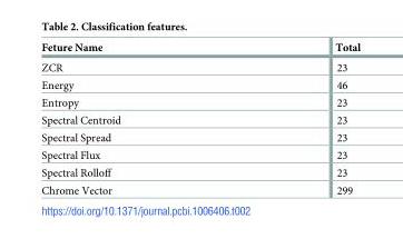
<table><thead><tr><td>Feture Name</td><td>Total</td></tr></thead><tbody><tr><td>ZCR</td><td>23</td></tr><tr><td>Energy</td><td>46</td></tr><tr><td>Entropy</td><td>23</td></tr><tr><td>Spectral Centroid</td><td>23</td></tr><tr><td>Spectral Spread</td><td>23</td></tr><tr><td>Spectral Flux</td><td>23</td></tr><tr><td>Spectral Rolloff</td><td>23</td></tr><tr><td>Chrome Vector</td><td>299</td></tr></tbody></table>